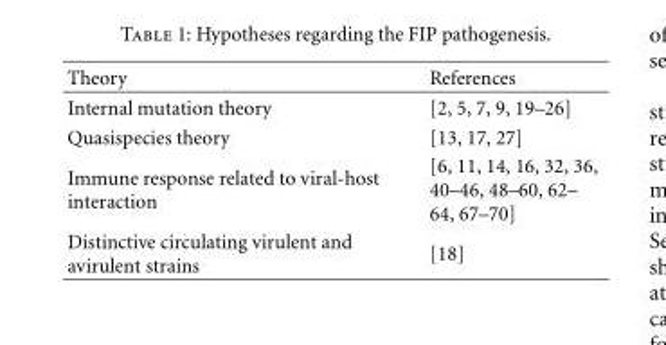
<table><thead><tr><td>Theory</td><td>References</td></tr></thead><tbody><tr><td>Internal mutation theory</td><td>[2, 5, 7, 9, 19–26]</td></tr><tr><td>Quasispecies theory</td><td>[13, 17, 27]</td></tr><tr><td>Immune response related to viral-host interaction</td><td>[6, 11, 14, 16, 32, 36, 40–46, 48–60, 62– 64, 67–70]</td></tr><tr><td>Distinctive circulating virulent and avirulent strains</td><td>[18]</td></tr></tbody></table>